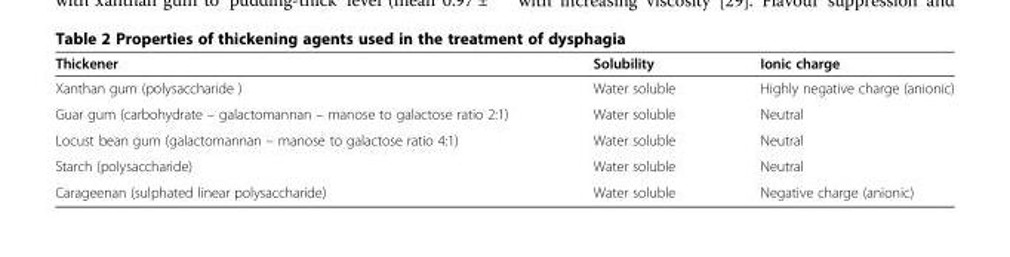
<table><thead><tr><td>Thickener</td><td>Solubility</td><td>Ionic charge</td></tr></thead><tbody><tr><td>Xanthan gum (polysaccharide )</td><td>Water soluble</td><td>Highly negative charge (anionic)</td></tr><tr><td>Guar gum (carbohydrate – galactomannan – manose to galactose ratio 2:1)</td><td>Water soluble</td><td>Neutral</td></tr><tr><td>Locust bean gum (galactomannan – manose to galactose ratio 4:1)</td><td>Water soluble</td><td>Neutral</td></tr><tr><td>Starch (polysaccharide)</td><td>Water soluble</td><td>Neutral</td></tr><tr><td>Carageenan (sulphated linear polysaccharide)</td><td>Water soluble</td><td>Negative charge (anionic)</td></tr></tbody></table>